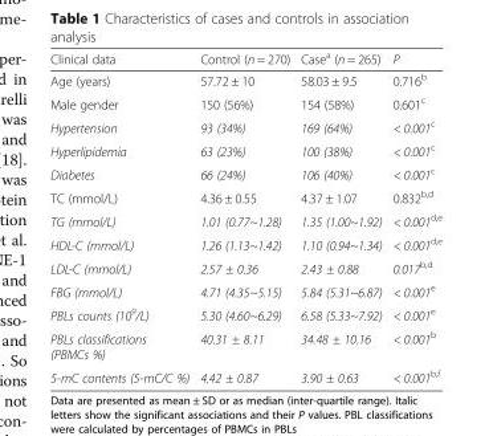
<table><thead><tr><td>Clinical data</td><td>Control (n = 270)</td><td>Case<sup>a</sup> (n = 265)</td><td>P</td></tr></thead><tbody><tr><td>Age (years)</td><td>57.72 ± 10</td><td>58.03 ± 9.5</td><td>0.716<sup>b</sup></td></tr><tr><td>Male gender</td><td>150 (56%)</td><td>154 (58%)</td><td>0.601<sup>c</sup></td></tr><tr><td>Hypertension</td><td>93 (34%)</td><td>169 (64%)</td><td>&lt; 0.001<sup>c</sup></td></tr><tr><td>Hyperlipidemia</td><td>63 (23%)</td><td>100 (38%)</td><td>&lt; 0.001<sup>c</sup></td></tr><tr><td>Diabetes</td><td>66 (24%)</td><td>106 (40%)</td><td>&lt; 0.001<sup>c</sup></td></tr><tr><td>TC (mmol/L)</td><td>4.36 ± 0.55</td><td>4.37 ± 1.07</td><td>0.832<sup>b,d</sup></td></tr><tr><td>TG (mmol/L)</td><td>1.01 (0.77~1.28)</td><td>1.35 (1.00~1.92)</td><td>&lt; 0.001<sup>d,e</sup></td></tr><tr><td>HDL-C (mmol/L)</td><td>1.26 (1.13~1.42)</td><td>1.10 (0.94~1.34)</td><td>&lt; 0.001<sup>d,e</sup></td></tr><tr><td>LDL-C (mmol/L)</td><td>2.57 ± 0.36</td><td>2.43 ± 0.88</td><td>0.017<sup>b,d</sup></td></tr><tr><td>FBG (mmol/L)</td><td>4.71 (4.35~5.15)</td><td>5.84 (5.31~6.87)</td><td>&lt; 0.001<sup>e</sup></td></tr><tr><td>PBLs counts (10<sup>9</sup>/L)</td><td>5.30 (4.60~6.29)</td><td>6.58 (5.33~7.92)</td><td>&lt; 0.001<sup>e</sup></td></tr><tr><td>PBLs classifications (PBMCs %)</td><td>40.31 ± 8.11</td><td>34.48 ± 10.16</td><td>&lt; 0.001<sup>b</sup></td></tr><tr><td>5-mC contents (5-mC/C %)</td><td>4.42 ± 0.87</td><td>3.90 ± 0.63</td><td>&lt; 0.001<sup>b,f</sup></td></tr></tbody></table>